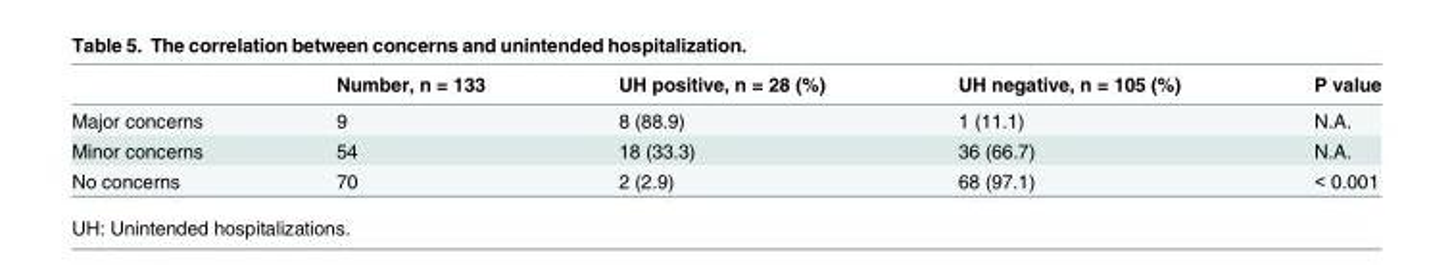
<table><thead><tr><td></td><td>Number, n = 133</td><td>UH positive, n = 28 (%)</td><td>UH negative, n = 105 (%)</td><td>P value</td></tr></thead><tbody><tr><td>Major concerns</td><td>9</td><td>8 (88.9)</td><td>1 (11.1)</td><td>N.A.</td></tr><tr><td>Minor concerns</td><td>54</td><td>18 (33.3)</td><td>36 (66.7)</td><td>N.A.</td></tr><tr><td>No concerns</td><td>70</td><td>2 (2.9)</td><td>68 (97.1)</td><td>&lt; 0.001</td></tr></tbody></table>